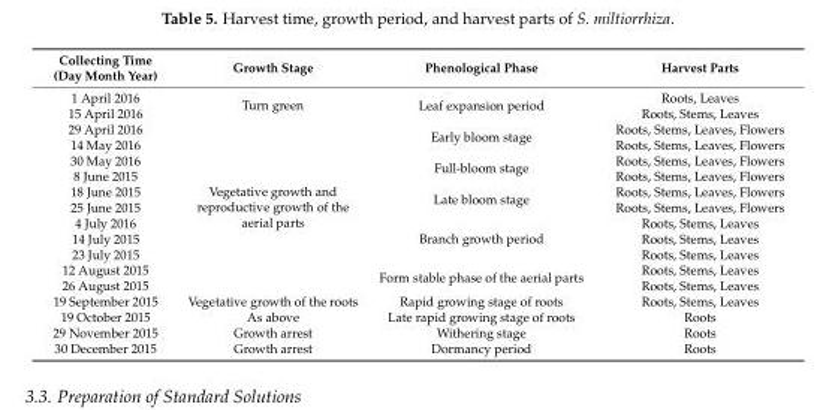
<table><thead><tr><td>Collecting Time (Day Month Year)</td><td>Growth Stage</td><td>Phenological Phase</td><td>Harvest Parts</td></tr></thead><tbody><tr><td>1 April 2016</td><td rowspan="2">Turn green</td><td rowspan="2">Leaf expansion period</td><td>Roots, Leaves</td></tr><tr><td>15 April 2016</td><td>Roots, Stems, Leaves</td></tr><tr><td>29 April 2016</td><td rowspan="11">Vegetative growth and reproductive growth of the aerial parts</td><td rowspan="2">Early bloom stage</td><td>Roots, Stems, Leaves, Flowers</td></tr><tr><td>14 May 2016</td><td>Roots, Stems, Leaves, Flowers</td></tr><tr><td>30 May 2016</td><td rowspan="2">Full-bloom stage</td><td>Roots, Stems, Leaves, Flowers</td></tr><tr><td>8 June 2015</td><td>Roots, Stems, Leaves, Flowers</td></tr><tr><td>18 June 2015</td><td rowspan="2">Late bloom stage</td><td>Roots, Stems, Leaves, Flowers</td></tr><tr><td>25 June 2015</td><td>Roots, Stems, Leaves, Flowers</td></tr><tr><td>4 July 2016</td><td rowspan="3">Branch growth period</td><td>Roots, Stems, Leaves</td></tr><tr><td>14 July 2015</td><td>Roots, Stems, Leaves</td></tr><tr><td>23 July 2015</td><td>Roots, Stems, Leaves</td></tr><tr><td>12 August 2015</td><td rowspan="2">Form stable phase of the aerial parts</td><td>Roots, Stems, Leaves</td></tr><tr><td>26 August 2015</td><td>Roots, Stems, Leaves</td></tr><tr><td>19 September 2015</td><td>Vegetative growth of the roots</td><td>Rapid growing stage of roots</td><td>Roots, Stems, Leaves</td></tr><tr><td>19 October 2015</td><td>As above</td><td>Late rapid growing stage of roots</td><td>Roots</td></tr><tr><td>29 November 2015</td><td>Growth arrest</td><td>Withering stage</td><td>Roots</td></tr><tr><td>30 December 2015</td><td>Growth arrest</td><td>Dormancy period</td><td>Roots</td></tr></tbody></table>